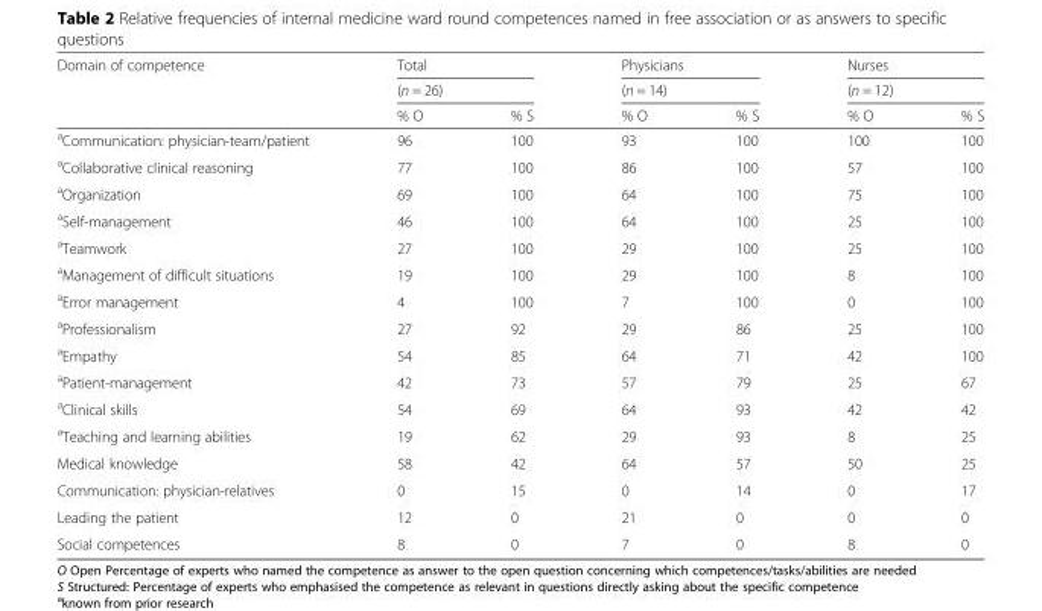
<table><thead><tr><td rowspan="3">Domain of competence</td><td rowspan="2" colspan="2">Total (n = 26)</td><td rowspan="2" colspan="2">Physicians (n = 14)</td><td rowspan="2" colspan="2">Nurses (n = 12)</td></tr><tr></tr><tr><td>% O</td><td>% S</td><td>% O</td><td>% S</td><td>% O</td><td>% S</td></tr></thead><tbody><tr><td><sup>a</sup>Communication: physician-team/patient</td><td>96</td><td>100</td><td>93</td><td>100</td><td>100</td><td>100</td></tr><tr><td><sup>a</sup>Collaborative clinical reasoning</td><td>77</td><td>100</td><td>86</td><td>100</td><td>57</td><td>100</td></tr><tr><td><sup>a</sup>Organization</td><td>69</td><td>100</td><td>64</td><td>100</td><td>75</td><td>100</td></tr><tr><td><sup>a</sup>Self-management</td><td>46</td><td>100</td><td>64</td><td>100</td><td>25</td><td>100</td></tr><tr><td><sup>a</sup>Teamwork</td><td>27</td><td>100</td><td>29</td><td>100</td><td>25</td><td>100</td></tr><tr><td><sup>a</sup>Management of difficult situations</td><td>19</td><td>100</td><td>29</td><td>100</td><td>8</td><td>100</td></tr><tr><td><sup>a</sup>Error management</td><td>4</td><td>100</td><td>7</td><td>100</td><td>0</td><td>100</td></tr><tr><td><sup>a</sup>Professionalism</td><td>27</td><td>92</td><td>29</td><td>86</td><td>25</td><td>100</td></tr><tr><td><sup>a</sup>Empathy</td><td>54</td><td>85</td><td>64</td><td>71</td><td>42</td><td>100</td></tr><tr><td><sup>a</sup>Patient-management</td><td>42</td><td>73</td><td>57</td><td>79</td><td>25</td><td>67</td></tr><tr><td><sup>a</sup>Clinical skills</td><td>54</td><td>69</td><td>64</td><td>93</td><td>42</td><td>42</td></tr><tr><td><sup>a</sup>Teaching and learning abilities</td><td>19</td><td>62</td><td>29</td><td>93</td><td>8</td><td>25</td></tr><tr><td>Medical knowledge</td><td>58</td><td>42</td><td>64</td><td>57</td><td>50</td><td>25</td></tr><tr><td>Communication: physician-relatives</td><td>0</td><td>15</td><td>0</td><td>14</td><td>0</td><td>17</td></tr><tr><td>Leading the patient</td><td>12</td><td>0</td><td>21</td><td>0</td><td>0</td><td>0</td></tr><tr><td>Social competences</td><td>8</td><td>0</td><td>7</td><td>0</td><td>8</td><td>0</td></tr></tbody></table>